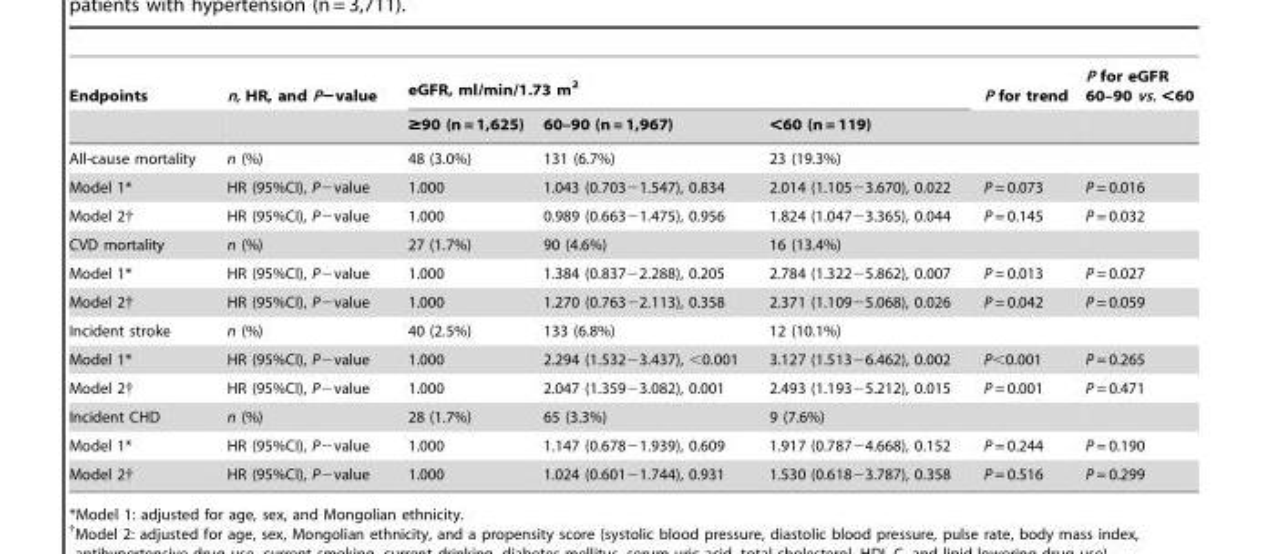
<table><thead><tr><td rowspan="2">Endpoints</td><td rowspan="2">n, HR, and P−value</td><td colspan="3">eGFR, ml/min/1.73 m<sup>2</sup></td><td rowspan="2">P for trend</td><td rowspan="2">P for eGFR 60–90 vs. &lt;60</td></tr><tr><td>≥90 (n = 1,625)</td><td>60–90 (n = 1,967)</td><td>&lt;60 (n = 119)</td></tr></thead><tbody><tr><td>All-cause mortality</td><td>n (%)</td><td>48 (3.0%)</td><td>131 (6.7%)</td><td>23 (19.3%)</td><td></td><td></td></tr><tr><td>Model 1*</td><td>HR (95%CI), P−value</td><td>1.000</td><td>1.043 (0.703−1.547), 0.834</td><td>2.014 (1.105−3.670), 0.022</td><td>P = 0.073</td><td>P = 0.016</td></tr><tr><td>Model 2†</td><td>HR (95%CI), P−value</td><td>1.000</td><td>0.989 (0.663−1.475), 0.956</td><td>1.824 (1.047−3.365), 0.044</td><td>P = 0.145</td><td>P = 0.032</td></tr><tr><td>CVD mortality</td><td>n (%)</td><td>27 (1.7%)</td><td>90 (4.6%)</td><td>16 (13.4%)</td><td></td><td></td></tr><tr><td>Model 1*</td><td>HR (95%CI), P−value</td><td>1.000</td><td>1.384 (0.837−2.288), 0.205</td><td>2.784 (1.322−5.862), 0.007</td><td>P = 0.013</td><td>P = 0.027</td></tr><tr><td>Model 2†</td><td>HR (95%CI), P−value</td><td>1.000</td><td>1.270 (0.763−2.113), 0.358</td><td>2.371 (1.109−5.068), 0.026</td><td>P = 0.042</td><td>P = 0.059</td></tr><tr><td>Incident stroke</td><td>n (%)</td><td>40 (2.5%)</td><td>133 (6.8%)</td><td>12 (10.1%)</td><td></td><td></td></tr><tr><td>Model 1*</td><td>HR (95%CI), P−value</td><td>1.000</td><td>2.294 (1.532−3.437), &lt;0.001</td><td>3.127 (1.513−6.462), 0.002</td><td>P&lt;0.001</td><td>P = 0.265</td></tr><tr><td>Model 2†</td><td>HR (95%CI), P−value</td><td>1.000</td><td>2.047 (1.359−3.082), 0.001</td><td>2.493 (1.193−5.212), 0.015</td><td>P = 0.001</td><td>P = 0.471</td></tr><tr><td>Incident CHD</td><td>n (%)</td><td>28 (1.7%)</td><td>65 (3.3%)</td><td>9 (7.6%)</td><td></td><td></td></tr><tr><td>Model 1*</td><td>HR (95%CI), P−value</td><td>1.000</td><td>1.147 (0.678−1.939), 0.609</td><td>1.917 (0.787−4.668), 0.152</td><td>P = 0.244</td><td>P = 0.190</td></tr><tr><td>Model 2†</td><td>HR (95%CI), P−value</td><td>1.000</td><td>1.024 (0.601−1.744), 0.931</td><td>1.530 (0.618−3.787), 0.358</td><td>P = 0.516</td><td>P = 0.299</td></tr></tbody></table>